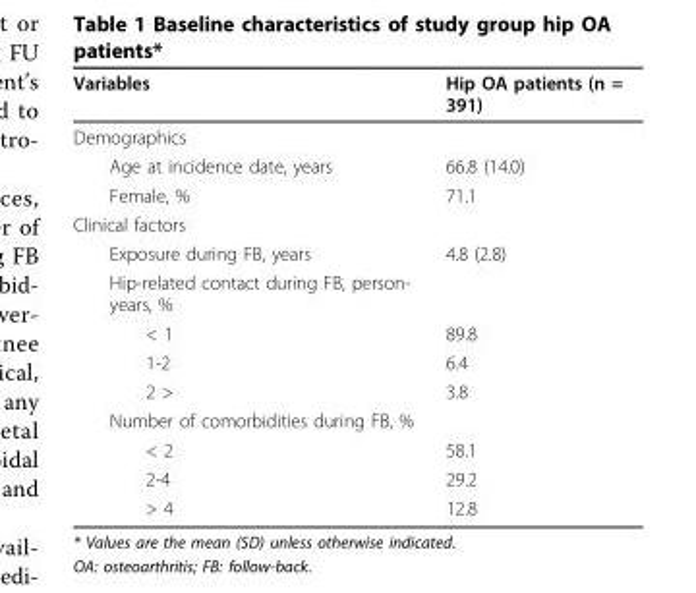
<table><thead><tr><td>Variables</td><td>Hip OA patients (n = 391)</td></tr></thead><tbody><tr><td colspan="2">Demographics</td></tr><tr><td>Age at incidence date, years</td><td>66.8 (14.0)</td></tr><tr><td>Female, %</td><td>71.1</td></tr><tr><td colspan="2">Clinical factors</td></tr><tr><td>Exposure during FB, years</td><td>4.8 (2.8)</td></tr><tr><td colspan="2">Hip-related contact during FB, person- years, %</td></tr><tr><td>&lt; 1</td><td>89.8</td></tr><tr><td>1-2</td><td>6.4</td></tr><tr><td>2 &gt;</td><td>3.8</td></tr><tr><td colspan="2">Number of comorbidities during FB, %</td></tr><tr><td>&lt; 2</td><td>58.1</td></tr><tr><td>2-4</td><td>29.2</td></tr><tr><td>&gt; 4</td><td>12.8</td></tr></tbody></table>